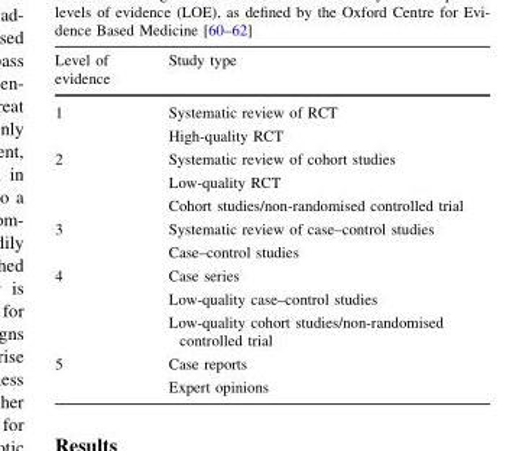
<table><thead><tr><td>Level of evidence</td><td>Study type</td></tr></thead><tbody><tr><td rowspan="2">1</td><td>Systematic review of RCT</td></tr><tr><td>High-quality RCT</td></tr><tr><td rowspan="3">2</td><td>Systematic review of cohort studies</td></tr><tr><td>Low-quality RCT</td></tr><tr><td>Cohort studies/non-randomised controlled trial</td></tr><tr><td rowspan="2">3</td><td>Systematic review of case–control studies</td></tr><tr><td>Case–control studies</td></tr><tr><td rowspan="3">4</td><td>Case series</td></tr><tr><td>Low-quality case–control studies</td></tr><tr><td>Low-quality cohort studies/non-randomised controlled trial</td></tr><tr><td rowspan="2">5</td><td>Case reports</td></tr><tr><td>Expert opinions</td></tr></tbody></table>